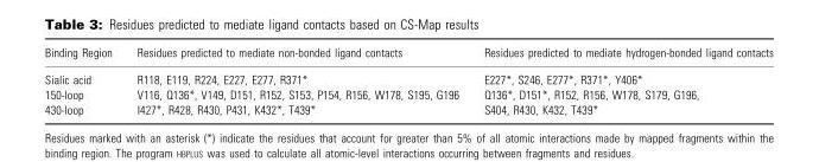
<table><thead><tr><td>Binding Region</td><td>Residues predicted to mediate non-bonded ligand contacts</td><td>Residues predicted to mediate hydrogen-bonded ligand contacts</td></tr></thead><tbody><tr><td>Sialic acid</td><td>R118, E119, R224, E227, E277, R371*</td><td>E227*, S246, E277*, R371*, Y406*</td></tr><tr><td>150-loop</td><td>V116, Q136*, V149, D151, R152, S153, P154, R156, W178, S195, G196</td><td>Q136*, D151*, R152, R156, W178, S179, G196,</td></tr><tr><td>430-loop</td><td>I427*, R428, R430, P431, K432*, T439*</td><td>S404, R430, K432, T439*</td></tr></tbody></table>